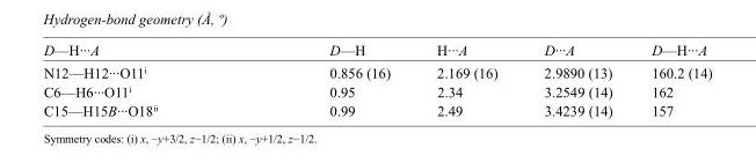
<table><tbody><tr><td>D—H···A</td><td>D—H</td><td>H···A</td><td>D···A</td><td>D—H···A</td></tr><tr><td>N12—H12···O11<sup>i</sup></td><td>0.856 (16)</td><td>2.169 (16)</td><td>2.9890 (13)</td><td>160.2 (14)</td></tr><tr><td>C6—H6···O11<sup>i</sup></td><td>0.95</td><td>2.34</td><td>3.2549 (14)</td><td>162</td></tr><tr><td>C15—H15B···O18<sup>ii</sup></td><td>0.99</td><td>2.49</td><td>3.4239 (14)</td><td>157</td></tr></tbody></table>